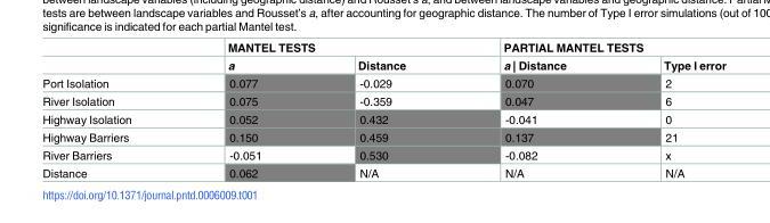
<table><thead><tr><td rowspan="2"></td><td colspan="2">MANTEL TESTS</td><td colspan="2">PARTIAL MANTEL TESTS</td></tr><tr><td>a</td><td>Distance</td><td>a | Distance</td><td>Type I error</td></tr></thead><tbody><tr><td>Port Isolation</td><td>0.077</td><td>-0.029</td><td>0.070</td><td>2</td></tr><tr><td>River Isolation</td><td>0.075</td><td>-0.359</td><td>0.047</td><td>6</td></tr><tr><td>Highway Isolation</td><td>0.052</td><td>0.432</td><td>-0.041</td><td>0</td></tr><tr><td>Highway Barriers</td><td>0.150</td><td>0.459</td><td>0.137</td><td>21</td></tr><tr><td>River Barriers</td><td>-0.051</td><td>0.530</td><td>-0.082</td><td>x</td></tr><tr><td>Distance</td><td>0.062</td><td>N/A</td><td>N/A</td><td>N/A</td></tr></tbody></table>